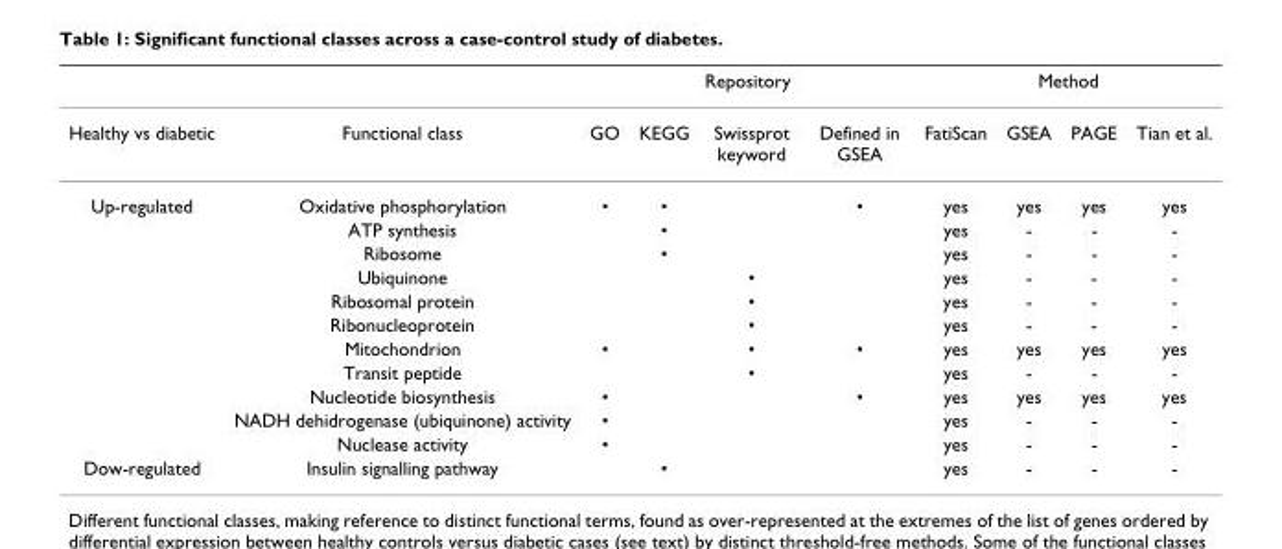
<table><thead><tr><td rowspan="2">Healthy vs diabetic</td><td rowspan="2">Functional class</td><td colspan="4">Repository</td><td colspan="4">Method</td></tr><tr><td>GO</td><td>KEGG</td><td>Swissprot keyword</td><td>Defined in GSEA</td><td>FatiScan</td><td>GSEA</td><td>PAGE</td><td>Tian et al.</td></tr></thead><tbody><tr><td rowspan="11">Up-regulated</td><td>Oxidative phosphorylation</td><td>•</td><td>•</td><td></td><td>•</td><td>yes</td><td>yes</td><td>yes</td><td>yes</td></tr><tr><td>ATP synthesis</td><td></td><td>•</td><td></td><td></td><td>yes</td><td>-</td><td>-</td><td>-</td></tr><tr><td>Ribosome</td><td></td><td>•</td><td></td><td></td><td>yes</td><td>-</td><td>-</td><td>-</td></tr><tr><td>Ubiquinone</td><td></td><td></td><td>•</td><td></td><td>yes</td><td>-</td><td>-</td><td>-</td></tr><tr><td>Ribosomal protein</td><td></td><td></td><td>•</td><td></td><td>yes</td><td>-</td><td>-</td><td>-</td></tr><tr><td>Ribonucleoprotein</td><td></td><td></td><td>•</td><td></td><td>yes</td><td>-</td><td>-</td><td>-</td></tr><tr><td>Mitochondrion</td><td>•</td><td></td><td>•</td><td>•</td><td>yes</td><td>yes</td><td>yes</td><td>yes</td></tr><tr><td>Transit peptide</td><td></td><td></td><td>•</td><td></td><td>yes</td><td>-</td><td>-</td><td>-</td></tr><tr><td>Nucleotide biosynthesis</td><td>•</td><td></td><td></td><td>•</td><td>yes</td><td>yes</td><td>yes</td><td>yes</td></tr><tr><td>NADH dehidrogenase (ubiquinone) activity</td><td>•</td><td></td><td></td><td></td><td>yes</td><td>-</td><td>-</td><td>-</td></tr><tr><td>Nuclease activity</td><td>•</td><td></td><td></td><td></td><td>yes</td><td>-</td><td>-</td><td>-</td></tr><tr><td>Dow-regulated</td><td>Insulin signalling pathway</td><td></td><td>•</td><td></td><td></td><td>yes</td><td>-</td><td>-</td><td>-</td></tr></tbody></table>